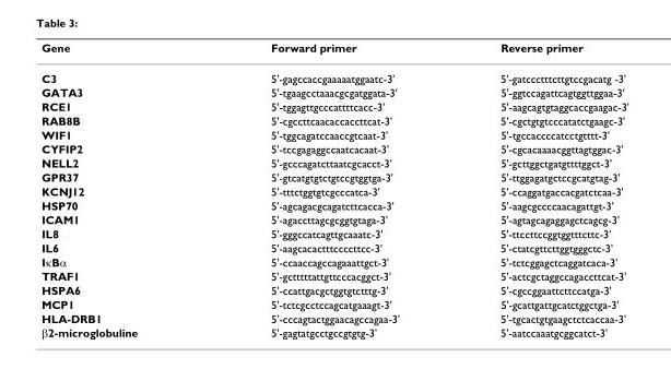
<table><thead><tr><td>Gene</td><td>Forward primer</td><td>Reverse primer</td></tr></thead><tbody><tr><td>C3</td><td>5&#x27;-gagccaccgaaaaatggaatc-3&#x27;</td><td>5&#x27;-gatccctttcttgtccgacatg -3&#x27;</td></tr><tr><td>GATA3</td><td>5&#x27;-tgaagcctaaacgcgatggata-3&#x27;</td><td>5&#x27;-ggtccagattcagtggttggaa-3&#x27;</td></tr><tr><td>RCE1</td><td>5&#x27;-tggagttgcccattttcacc-3&#x27;</td><td>5&#x27;-aagcagtgtaggcaccgaagac-3&#x27;</td></tr><tr><td>RAB8B</td><td>5&#x27;-cgccttcaacaccaccttcat-3&#x27;</td><td>5&#x27;-cgctgtgtcccatatctgaagc-3&#x27;</td></tr><tr><td>WIF1</td><td>5&#x27;-tggcagatccaaccgtcaat-3&#x27;</td><td>5&#x27;-tgccaccccatcctgtttt-3&#x27;</td></tr><tr><td>CYFIP2</td><td>5&#x27;-tccgagaggccaatcacaat-3&#x27;</td><td>5&#x27;-cgcacaaaacggttagtggac-3&#x27;</td></tr><tr><td>NELL2</td><td>5&#x27;-gcccagatcttaatcgcacct-3&#x27;</td><td>5&#x27;-gcttggctgatgttttggct-3&#x27;</td></tr><tr><td>GPR37</td><td>5&#x27;-gtcatgtgtctgtccgtggtga-3&#x27;</td><td>5&#x27;-ttggagatgctccgcatgtag-3&#x27;</td></tr><tr><td>KCNJ12</td><td>5&#x27;-tttctggtgtcgcccatca-3&#x27;</td><td>5&#x27;-ccaggatgaccacgatctcaa-3&#x27;</td></tr><tr><td>HSP70</td><td>5&#x27;-agcagacgcagatcttcacca-3&#x27;</td><td>5&#x27;-aagcgccccaacagattgt-3&#x27;</td></tr><tr><td>ICAM1</td><td>5&#x27;-agaccttagcgcggtgtaga-3&#x27;</td><td>5&#x27;-agtagcagaggagctcagcg-3&#x27;</td></tr><tr><td>IL8</td><td>5&#x27;-gggccatcagttgcaaatc-3&#x27;</td><td>5&#x27;-ttccttccggtggtttcttc-3&#x27;</td></tr><tr><td>IL6</td><td>5&#x27;-aagcacactttccccttcc-3&#x27;</td><td>5&#x27;-ctatcgttcttggtgggctc-3&#x27;</td></tr><tr><td>IκBα</td><td>5&#x27;-ccaaccagccagaaattgct-3&#x27;</td><td>5&#x27;-tctcggagctcaggatcaca-3&#x27;</td></tr><tr><td>TRAF1</td><td>5&#x27;-gctttttattgttcccacggct-3&#x27;</td><td>5&#x27;-actcgctaggccagaccttcat-3&#x27;</td></tr><tr><td>HSPA6</td><td>5&#x27;-ccattgacgctggtgtctttg-3&#x27;</td><td>5&#x27;-cgccggaattcttccatga-3&#x27;</td></tr><tr><td>MCP1</td><td>5&#x27;-tctcgcctccagcatgaaagt-3&#x27;</td><td>5&#x27;-gcattgattgcatctggctga-3&#x27;</td></tr><tr><td>HLA-DRB1</td><td>5&#x27;-cccagtactggaacagccagaa-3&#x27;</td><td>5&#x27;-tgcactgtgaagctctcaccaa-3&#x27;</td></tr><tr><td>β2-microglobuline</td><td>5&#x27;-gagtatgcctgccgtgtg-3&#x27;</td><td>5&#x27;-aatccaaatgcggcatct-3&#x27;</td></tr></tbody></table>